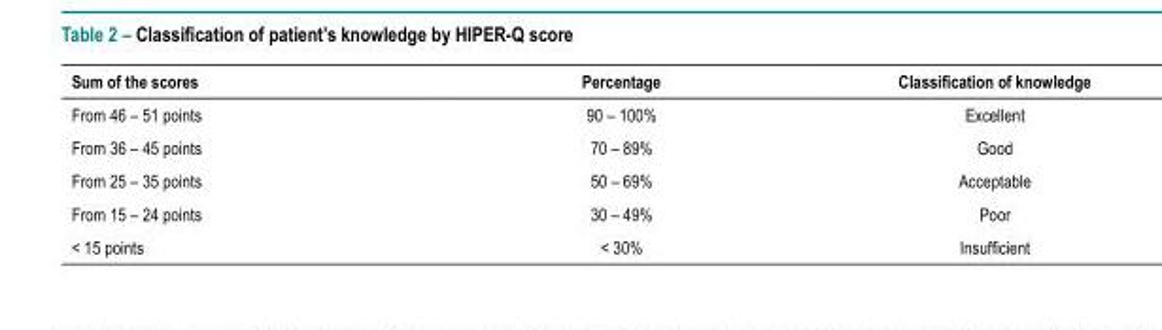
<table><thead><tr><td>Sum of the scores</td><td>Percentage</td><td>Classification of knowledge</td></tr></thead><tbody><tr><td>From 46 – 51 points</td><td>90 – 100%</td><td>Excellent</td></tr><tr><td>From 36 – 45 points</td><td>70 – 89%</td><td>Good</td></tr><tr><td>From 25 – 35 points</td><td>50 – 69%</td><td>Acceptable</td></tr><tr><td>From 15 – 24 points</td><td>30 – 49%</td><td>Poor</td></tr><tr><td>&lt; 15 points</td><td>&lt; 30%</td><td>Insufficient</td></tr></tbody></table>